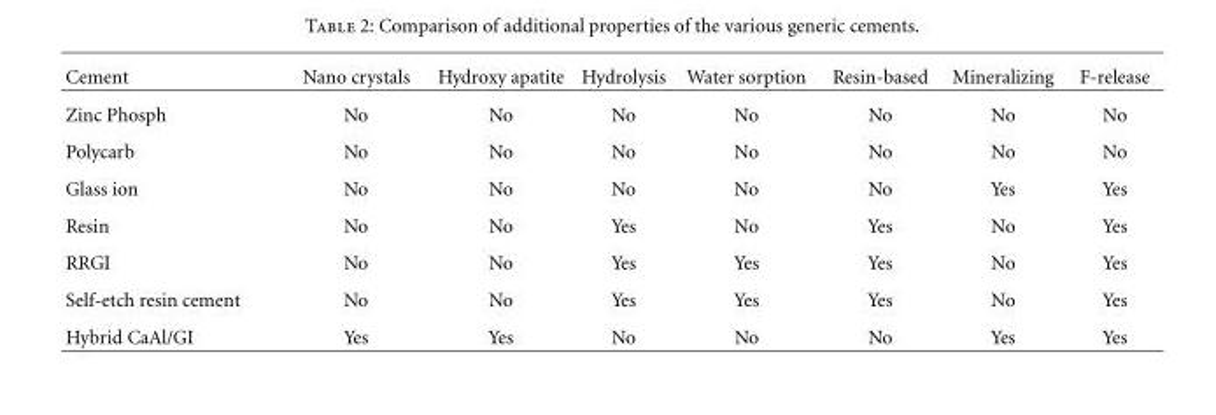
<table><thead><tr><td>Cement</td><td>Nano crystals</td><td>Hydroxy apatite</td><td>Hydrolysis</td><td>Water sorption</td><td>Resin-based</td><td>Mineralizing</td><td>F-release</td></tr></thead><tbody><tr><td>Zinc Phosph</td><td>No</td><td>No</td><td>No</td><td>No</td><td>No</td><td>No</td><td>No</td></tr><tr><td>Polycarb</td><td>No</td><td>No</td><td>No</td><td>No</td><td>No</td><td>No</td><td>No</td></tr><tr><td>Glass ion</td><td>No</td><td>No</td><td>No</td><td>No</td><td>No</td><td>Yes</td><td>Yes</td></tr><tr><td>Resin</td><td>No</td><td>No</td><td>Yes</td><td>No</td><td>Yes</td><td>No</td><td>Yes</td></tr><tr><td>RRGI</td><td>No</td><td>No</td><td>Yes</td><td>Yes</td><td>Yes</td><td>No</td><td>Yes</td></tr><tr><td>Self-etch resin cement</td><td>No</td><td>No</td><td>Yes</td><td>Yes</td><td>Yes</td><td>No</td><td>Yes</td></tr><tr><td>Hybrid CaAl/GI</td><td>Yes</td><td>Yes</td><td>No</td><td>No</td><td>No</td><td>Yes</td><td>Yes</td></tr></tbody></table>